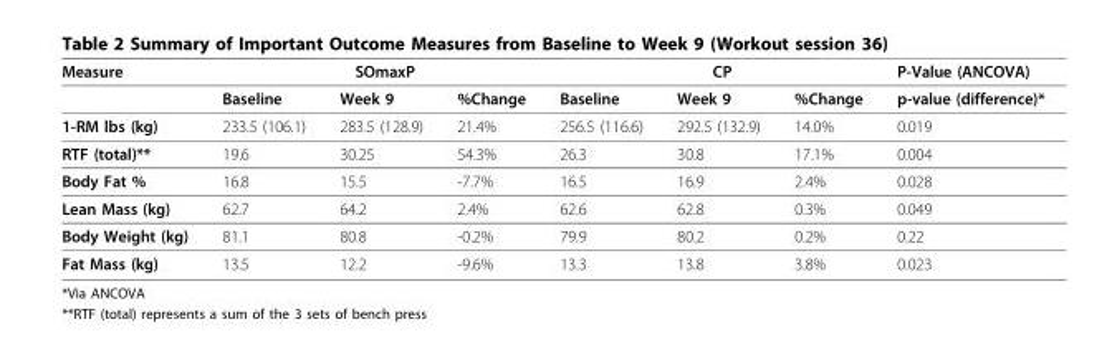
<table><thead><tr><td rowspan="2">Measure</td><td colspan="3">SOmaxP</td><td colspan="3">CP</td><td rowspan="2">P-Value (ANCOVA) p-value (difference)*</td></tr><tr><td>Baseline</td><td>Week 9</td><td>%Change</td><td>Baseline</td><td>Week 9</td><td>%Change</td></tr></thead><tbody><tr><td>1-RM lbs (kg)</td><td>233.5 (106.1)</td><td>283.5 (128.9)</td><td>21.4%</td><td>256.5 (116.6)</td><td>292.5 (132.9)</td><td>14.0%</td><td>0.019</td></tr><tr><td>RTF (total)**</td><td>19.6</td><td>30.25</td><td>54.3%</td><td>26.3</td><td>30.8</td><td>17.1%</td><td>0.004</td></tr><tr><td>Body Fat %</td><td>16.8</td><td>15.5</td><td>-7.7%</td><td>16.5</td><td>16.9</td><td>2.4%</td><td>0.028</td></tr><tr><td>Lean Mass (kg)</td><td>62.7</td><td>64.2</td><td>2.4%</td><td>62.6</td><td>62.8</td><td>0.3%</td><td>0.049</td></tr><tr><td>Body Weight (kg)</td><td>81.1</td><td>80.8</td><td>-0.2%</td><td>79.9</td><td>80.2</td><td>0.2%</td><td>0.22</td></tr><tr><td>Fat Mass (kg)</td><td>13.5</td><td>12.2</td><td>-9.6%</td><td>13.3</td><td>13.8</td><td>3.8%</td><td>0.023</td></tr></tbody></table>